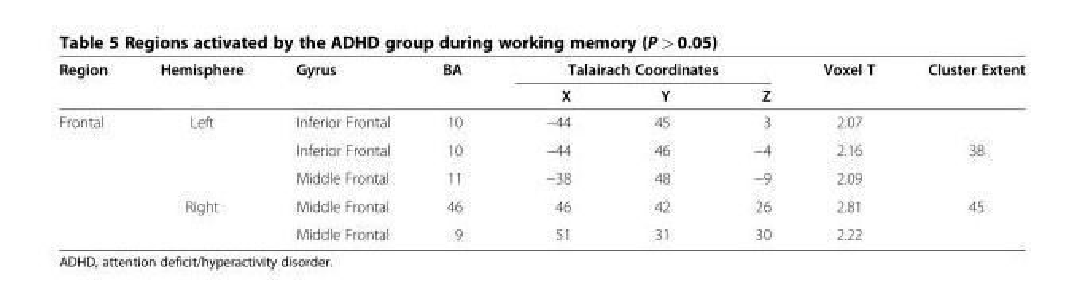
<table><thead><tr><td rowspan="2">Region</td><td rowspan="2">Hemisphere</td><td rowspan="2">Gyrus</td><td rowspan="2">BA</td><td colspan="3">Talairach Coordinates</td><td rowspan="2">Voxel T</td><td rowspan="2">Cluster Extent</td></tr><tr><td>X</td><td>Y</td><td>Z</td></tr></thead><tbody><tr><td rowspan="5">Frontal</td><td>Left</td><td>Inferior Frontal</td><td>10</td><td>−44</td><td>45</td><td>3</td><td>2.07</td><td></td></tr><tr><td></td><td>Inferior Frontal</td><td>10</td><td>−44</td><td>46</td><td>−4</td><td>2.16</td><td>38</td></tr><tr><td></td><td>Middle Frontal</td><td>11</td><td>−38</td><td>48</td><td>−9</td><td>2.09</td><td></td></tr><tr><td>Right</td><td>Middle Frontal</td><td>46</td><td>46</td><td>42</td><td>26</td><td>2.81</td><td>45</td></tr><tr><td></td><td>Middle Frontal</td><td>9</td><td>51</td><td>31</td><td>30</td><td>2.22</td><td></td></tr></tbody></table>